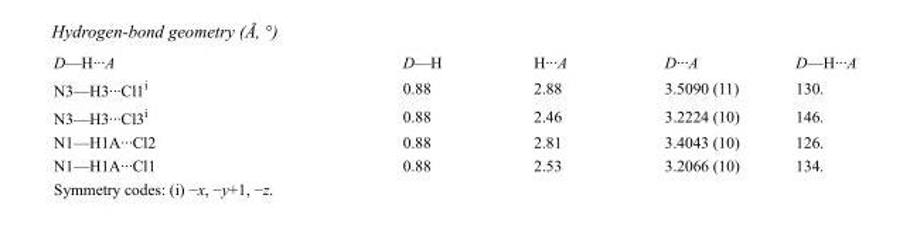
<table><tbody><tr><td>D—H···A</td><td>D—H</td><td>H···A</td><td>D···A</td><td>D—H···A</td></tr><tr><td>N3—H3···Cl1<sup>i</sup></td><td>0.88</td><td>2.88</td><td>3.5090 (11)</td><td>130.</td></tr><tr><td>N3—H3···Cl3<sup>i</sup></td><td>0.88</td><td>2.46</td><td>3.2224 (10)</td><td>146.</td></tr><tr><td>N1—H1A···Cl2</td><td>0.88</td><td>2.81</td><td>3.4043 (10)</td><td>126.</td></tr><tr><td>N1—H1A···Cl1</td><td>0.88</td><td>2.53</td><td>3.2066 (10)</td><td>134.</td></tr></tbody></table>